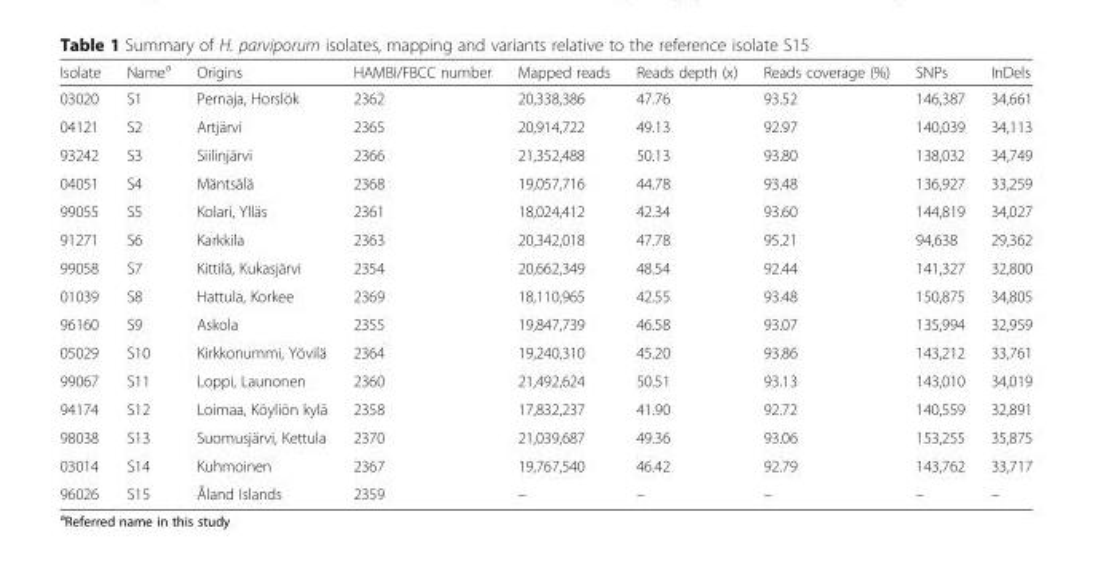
<table><thead><tr><td>Isolate</td><td>Name<sup>a</sup></td><td>Origins</td><td>HAMBI/FBCC number</td><td>Mapped reads</td><td>Reads depth (x)</td><td>Reads coverage (%)</td><td>SNPs</td><td>InDels</td></tr></thead><tbody><tr><td>03020</td><td>S1</td><td>Pernaja, Horslök</td><td>2362</td><td>20,338,386</td><td>47.76</td><td>93.52</td><td>146,387</td><td>34,661</td></tr><tr><td>04121</td><td>S2</td><td>Artjärvi</td><td>2365</td><td>20,914,722</td><td>49.13</td><td>92.97</td><td>140,039</td><td>34,113</td></tr><tr><td>93242</td><td>S3</td><td>Siilinjärvi</td><td>2366</td><td>21,352,488</td><td>50.13</td><td>93.80</td><td>138,032</td><td>34,749</td></tr><tr><td>04051</td><td>S4</td><td>Mäntsälä</td><td>2368</td><td>19,057,716</td><td>44.78</td><td>93.48</td><td>136,927</td><td>33,259</td></tr><tr><td>99055</td><td>S5</td><td>Kolari, Ylläs</td><td>2361</td><td>18,024,412</td><td>42.34</td><td>93.60</td><td>144,819</td><td>34,027</td></tr><tr><td>91271</td><td>S6</td><td>Karkkila</td><td>2363</td><td>20,342,018</td><td>47.78</td><td>95.21</td><td>94,638</td><td>29,362</td></tr><tr><td>99058</td><td>S7</td><td>Kittilä, Kukasjärvi</td><td>2354</td><td>20,662,349</td><td>48.54</td><td>92.44</td><td>141,327</td><td>32,800</td></tr><tr><td>01039</td><td>S8</td><td>Hattula, Korkee</td><td>2369</td><td>18,110,965</td><td>42.55</td><td>93.48</td><td>150,875</td><td>34,805</td></tr><tr><td>96160</td><td>S9</td><td>Askola</td><td>2355</td><td>19,847,739</td><td>46.58</td><td>93.07</td><td>135,994</td><td>32,959</td></tr><tr><td>05029</td><td>S10</td><td>Kirkkonummi, Yövilä</td><td>2364</td><td>19,240,310</td><td>45.20</td><td>93.86</td><td>143,212</td><td>33,761</td></tr><tr><td>99067</td><td>S11</td><td>Loppi, Launonen</td><td>2360</td><td>21,492,624</td><td>50.51</td><td>93.13</td><td>143,010</td><td>34,019</td></tr><tr><td>94174</td><td>S12</td><td>Loimaa, Köyliön kylä</td><td>2358</td><td>17,832,237</td><td>41.90</td><td>92.72</td><td>140,559</td><td>32,891</td></tr><tr><td>98038</td><td>S13</td><td>Suomusjärvi, Kettula</td><td>2370</td><td>21,039,687</td><td>49.36</td><td>93.06</td><td>153,255</td><td>35,875</td></tr><tr><td>03014</td><td>S14</td><td>Kuhmoinen</td><td>2367</td><td>19,767,540</td><td>46.42</td><td>92.79</td><td>143,762</td><td>33,717</td></tr><tr><td>96026</td><td>S15</td><td>Åland Islands</td><td>2359</td><td>–</td><td>–</td><td>–</td><td>–</td><td>–</td></tr></tbody></table>